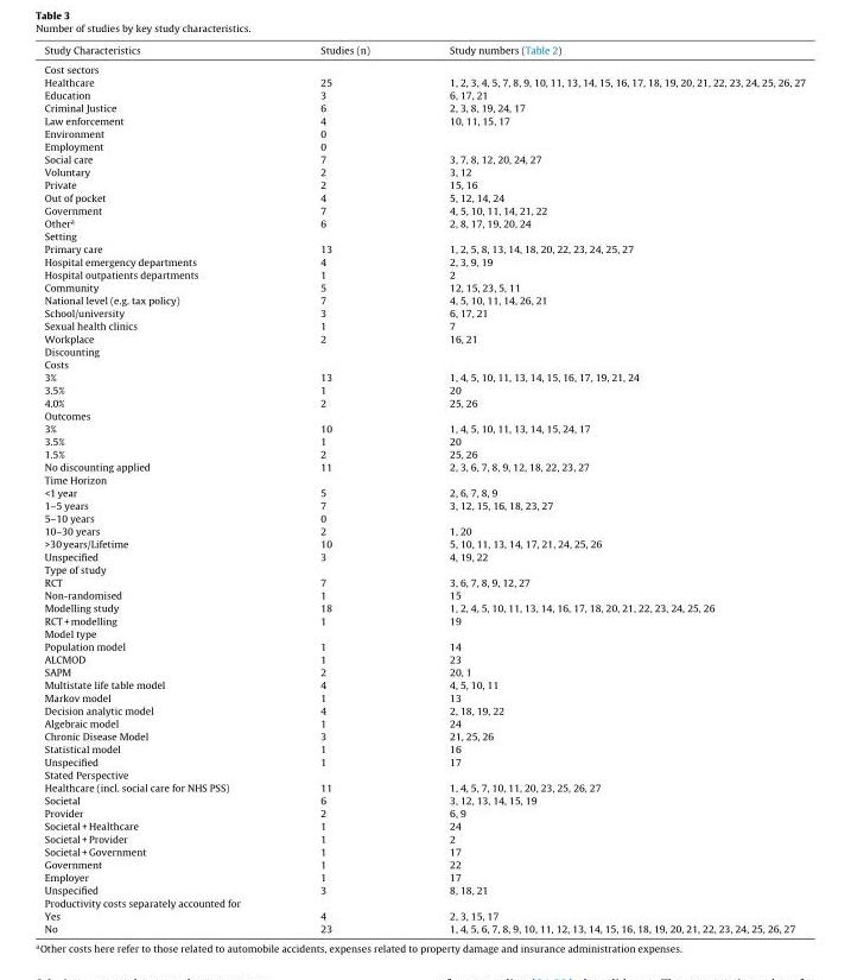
<table><thead><tr><td>Study Characteristics</td><td>Studies (n)</td><td>Study numbers (Table 2)</td></tr></thead><tbody><tr><td colspan="3">Cost sectors</td></tr><tr><td>Healthcare</td><td>25</td><td>1, 2, 3, 4, 5, 7, 8, 9, 10, 11, 13, 14, 15, 16, 17, 18, 19, 20, 21, 22, 23, 24, 25, 26, 27</td></tr><tr><td>Education</td><td>3</td><td>6, 17, 21</td></tr><tr><td>Criminal Justice</td><td>6</td><td>2, 3, 8, 19, 24, 17</td></tr><tr><td>Law enforcement</td><td>4</td><td>10, 11, 15, 17</td></tr><tr><td>Environment</td><td>0</td><td></td></tr><tr><td>Employment</td><td>0</td><td></td></tr><tr><td>Social care</td><td>7</td><td>3, 7, 8, 12, 20, 24, 27</td></tr><tr><td>Voluntary</td><td>2</td><td>3, 12</td></tr><tr><td>Private</td><td>2</td><td>15, 16</td></tr><tr><td>Out of pocket</td><td>4</td><td>5, 12, 14, 24</td></tr><tr><td>Government</td><td>7</td><td>4, 5, 10, 11, 14, 21, 22</td></tr><tr><td>Other<sup>a</sup></td><td>6</td><td>2, 8, 17, 19, 20, 24</td></tr><tr><td colspan="3">Setting</td></tr><tr><td>Primary care</td><td>13</td><td>1, 2, 5, 8, 13, 14, 18, 20, 22, 23, 24, 25, 27</td></tr><tr><td>Hospital emergency departments</td><td>4</td><td>2, 3, 9, 19</td></tr><tr><td>Hospital outpatients departments</td><td>1</td><td>2</td></tr><tr><td>Community</td><td>5</td><td>12, 15, 23, 5, 11</td></tr><tr><td>National level (e.g. tax policy)</td><td>7</td><td>4, 5, 10, 11, 14, 26, 21</td></tr><tr><td>School/university</td><td>3</td><td>6, 17, 21</td></tr><tr><td>Sexual health clinics</td><td>1</td><td>7</td></tr><tr><td>Workplace</td><td>2</td><td>16, 21</td></tr><tr><td colspan="3">Discounting</td></tr><tr><td colspan="3">Costs</td></tr><tr><td>3%</td><td>13</td><td>1, 4, 5, 10, 11, 13, 14, 15, 16, 17, 19, 21, 24</td></tr><tr><td>3.5%</td><td>1</td><td>20</td></tr><tr><td>4.0%</td><td>2</td><td>25, 26</td></tr><tr><td colspan="3">Outcomes</td></tr><tr><td>3%</td><td>10</td><td>1, 4, 5, 10, 11, 13, 14, 15, 24, 17</td></tr><tr><td>3.5%</td><td>1</td><td>20</td></tr><tr><td>1.5%</td><td>2</td><td>25, 26</td></tr><tr><td>No discounting applied</td><td>11</td><td>2, 3, 6, 7, 8, 9, 12, 18, 22, 23, 27</td></tr><tr><td colspan="3">Time Horizon</td></tr><tr><td>&lt;1 year</td><td>5</td><td>2, 6, 7, 8, 9</td></tr><tr><td>1–5 years</td><td>7</td><td>3, 12, 15, 16, 18, 23, 27</td></tr><tr><td>5–10 years</td><td>0</td><td></td></tr><tr><td>10–30 years</td><td>2</td><td>1, 20</td></tr><tr><td>&gt;30 years/Lifetime</td><td>10</td><td>5, 10, 11, 13, 14, 17, 21, 24, 25, 26</td></tr><tr><td>Unspecified</td><td>3</td><td>4, 19, 22</td></tr><tr><td colspan="3">Type of study</td></tr><tr><td>RCT</td><td>7</td><td>3, 6, 7, 8, 9, 12, 27</td></tr><tr><td>Non-randomised</td><td>1</td><td>15</td></tr><tr><td>Modelling study</td><td>18</td><td>1, 2, 4, 5, 10, 11, 13, 14, 16, 17, 18, 20, 21, 22, 23, 24, 25, 26</td></tr><tr><td>RCT + modelling</td><td>1</td><td>19</td></tr><tr><td colspan="3">Model type</td></tr><tr><td>Population model</td><td>1</td><td>14</td></tr><tr><td>ALCMOD</td><td>1</td><td>23</td></tr><tr><td>SAPM</td><td>2</td><td>20, 1</td></tr><tr><td>Multistate life table model</td><td>4</td><td>4, 5, 10, 11</td></tr><tr><td>Markov model</td><td>1</td><td>13</td></tr><tr><td>Decision analytic model</td><td>4</td><td>2, 18, 19, 22</td></tr><tr><td>Algebraic model</td><td>1</td><td>24</td></tr><tr><td>Chronic Disease Model</td><td>3</td><td>21, 25, 26</td></tr><tr><td>Statistical model</td><td>1</td><td>16</td></tr><tr><td>Unspecified</td><td>1</td><td>17</td></tr><tr><td colspan="3">Stated Perspective</td></tr><tr><td>Healthcare (incl. social care for NHS PSS)</td><td>11</td><td>1, 4, 5, 7, 10, 11, 20, 23, 25, 26, 27</td></tr><tr><td>Societal</td><td>6</td><td>3, 12, 13, 14, 15, 19</td></tr><tr><td>Provider</td><td>2</td><td>6, 9</td></tr><tr><td>Societal + Healthcare</td><td>1</td><td>24</td></tr><tr><td>Societal + Provider</td><td>1</td><td>2</td></tr><tr><td>Societal + Government</td><td>1</td><td>17</td></tr><tr><td>Government</td><td>1</td><td>22</td></tr><tr><td>Employer</td><td>1</td><td>17</td></tr><tr><td>Unspecified</td><td>3</td><td>8, 18, 21</td></tr><tr><td colspan="3">Productivity costs separately accounted for</td></tr><tr><td>Yes</td><td>4</td><td>2, 3, 15, 17</td></tr><tr><td>No</td><td>23</td><td>1, 4, 5, 6, 7, 8, 9, 10, 11, 12, 13, 14, 15, 16, 18, 19, 20, 21, 22, 23, 24, 25, 26, 27</td></tr></tbody></table>